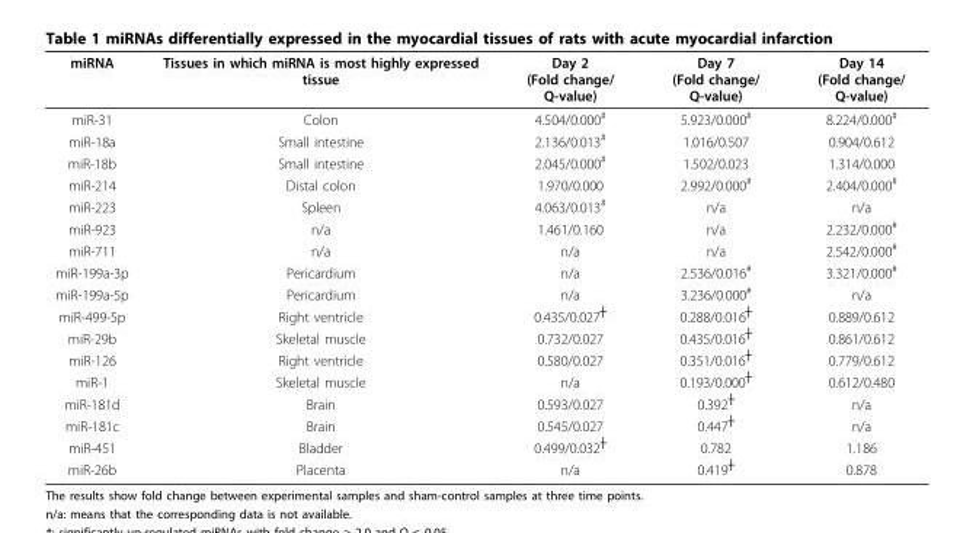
<table><thead><tr><td>miRNA</td><td>Tissues in which miRNA is most highly expressed tissue</td><td>Day 2 (Fold change/ Q-value)</td><td>Day 7 (Fold change/ Q-value)</td><td>Day 14 (Fold change/ Q-value)</td></tr></thead><tbody><tr><td>miR-31</td><td>Colon</td><td>4.504/0.000<sup>#</sup></td><td>5.923/0.000<sup>#</sup></td><td>8.224/0.000<sup>#</sup></td></tr><tr><td>miR-18a</td><td>Small intestine</td><td>2.136/0.013<sup>#</sup></td><td>1.016/0.507</td><td>0.904/0.612</td></tr><tr><td>miR-18b</td><td>Small intestine</td><td>2.045/0.000<sup>#</sup></td><td>1.502/0.023</td><td>1.314/0.000</td></tr><tr><td>miR-214</td><td>Distal colon</td><td>1.970/0.000</td><td>2.992/0.000<sup>#</sup></td><td>2.404/0.000<sup>#</sup></td></tr><tr><td>miR-223</td><td>Spleen</td><td>4.063/0.013<sup>#</sup></td><td>n/a</td><td>n/a</td></tr><tr><td>miR-923</td><td>n/a</td><td>1.461/0.160</td><td>n/a</td><td>2.232/0.000<sup>#</sup></td></tr><tr><td>miR-711</td><td>n/a</td><td>n/a</td><td>n/a</td><td>2.542/0.000<sup>#</sup></td></tr><tr><td>miR-199a-3p</td><td>Pericardium</td><td>n/a</td><td>2.536/0.016<sup>#</sup></td><td>3.321/0.000<sup>#</sup></td></tr><tr><td>miR-199a-5p</td><td>Pericardium</td><td>n/a</td><td>3.236/0.000<sup>#</sup></td><td>n/a</td></tr><tr><td>miR-499-5p</td><td>Right ventricle</td><td>0.435/0.027<sup>┼</sup></td><td>0.288/0.016<sup>┼</sup></td><td>0.889/0.612</td></tr><tr><td>miR-29b</td><td>Skeletal muscle</td><td>0.732/0.027</td><td>0.435/0.016<sup>┼</sup></td><td>0.861/0.612</td></tr><tr><td>miR-126</td><td>Right ventricle</td><td>0.580/0.027</td><td>0.351/0.016<sup>┼</sup></td><td>0.779/0.612</td></tr><tr><td>miR-1</td><td>Skeletal muscle</td><td>n/a</td><td>0.193/0.000<sup>┼</sup></td><td>0.612/0.480</td></tr><tr><td>miR-181d</td><td>Brain</td><td>0.593/0.027</td><td>0.392<sup>┼</sup></td><td>n/a</td></tr><tr><td>miR-181c</td><td>Brain</td><td>0.545/0.027</td><td>0.447<sup>┼</sup></td><td>n/a</td></tr><tr><td>miR-451</td><td>Bladder</td><td>0.499/0.032<sup>┼</sup></td><td>0.782</td><td>1.186</td></tr><tr><td>miR-26b</td><td>Placenta</td><td>n/a</td><td>0.419<sup>┼</sup></td><td>0.878</td></tr></tbody></table>